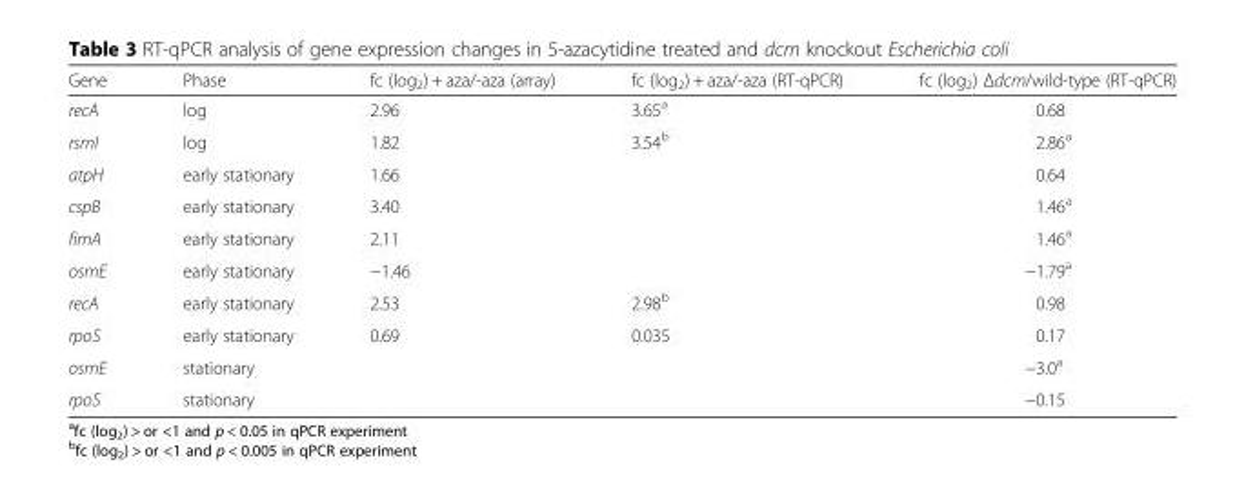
<table><thead><tr><td>Gene</td><td>Phase</td><td>fc (log<sub>2</sub>) + aza/-aza (array)</td><td>fc (log<sub>2</sub>) + aza/-aza (RT-qPCR)</td><td>fc (log<sub>2</sub>) Δdcm/wild-type (RT-qPCR)</td></tr></thead><tbody><tr><td>recA</td><td>log</td><td>2.96</td><td>3.65<sup>a</sup></td><td>0.68</td></tr><tr><td>rsmI</td><td>log</td><td>1.82</td><td>3.54<sup>b</sup></td><td>2.86<sup>a</sup></td></tr><tr><td>atpH</td><td>early stationary</td><td>1.66</td><td></td><td>0.64</td></tr><tr><td>cspB</td><td>early stationary</td><td>3.40</td><td></td><td>1.46<sup>a</sup></td></tr><tr><td>fimA</td><td>early stationary</td><td>2.11</td><td></td><td>1.46<sup>a</sup></td></tr><tr><td>osmE</td><td>early stationary</td><td>−1.46</td><td></td><td>−1.79<sup>a</sup></td></tr><tr><td>recA</td><td>early stationary</td><td>2.53</td><td>2.98<sup>b</sup></td><td>0.98</td></tr><tr><td>rpoS</td><td>early stationary</td><td>0.69</td><td>0.035</td><td>0.17</td></tr><tr><td>osmE</td><td>stationary</td><td></td><td></td><td>−3.0<sup>a</sup></td></tr><tr><td>rpoS</td><td>stationary</td><td></td><td></td><td>−0.15</td></tr></tbody></table>